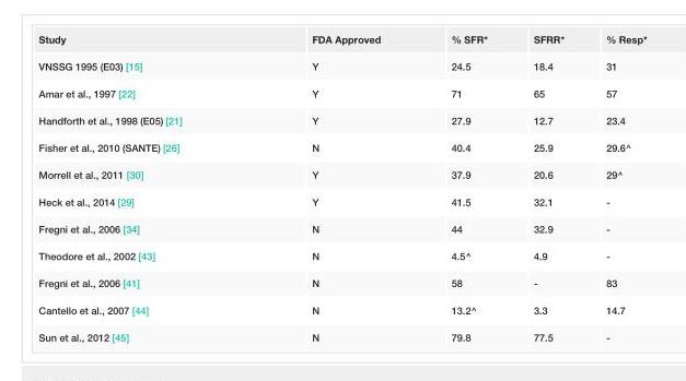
<table><tbody><tr><td>Study</td><td>FDA Approved</td><td>% SFR*</td><td>SFRR*</td><td>% Resp*</td></tr><tr><td>VNSSG 1995 (E03) [15]</td><td>Y</td><td>24.5</td><td>18.4</td><td>31</td></tr><tr><td>Amar et al., 1997 [22]</td><td>Y</td><td>71</td><td>65</td><td>57</td></tr><tr><td>Handforth et al., 1998 (E05) [21]</td><td>Y</td><td>27.9</td><td>12.7</td><td>23.4</td></tr><tr><td>Fisher et al., 2010 (SANTE) [26]</td><td>N</td><td>40.4</td><td>25.9</td><td>29.6^</td></tr><tr><td>Morrell et al., 2011 [30]</td><td>Y</td><td>37.9</td><td>20.6</td><td>29^</td></tr><tr><td>Heck et al., 2014 [29]</td><td>Y</td><td>41.5</td><td>32.1</td><td>-</td></tr><tr><td>Fregni et al., 2006 [34]</td><td>N</td><td>44</td><td>32.9</td><td>-</td></tr><tr><td>Theodore et al., 2002 [43]</td><td>N</td><td>4.5^</td><td>4.9</td><td>-</td></tr><tr><td>Fregni et al., 2006 [41]</td><td>N</td><td>58</td><td>-</td><td>83</td></tr><tr><td>Cantello et al., 2007 [44]</td><td>N</td><td>13.2^</td><td>3.3</td><td>14.7</td></tr><tr><td>Sun et al., 2012 [45]</td><td>N</td><td>79.8</td><td>77.5</td><td>-</td></tr></tbody></table>